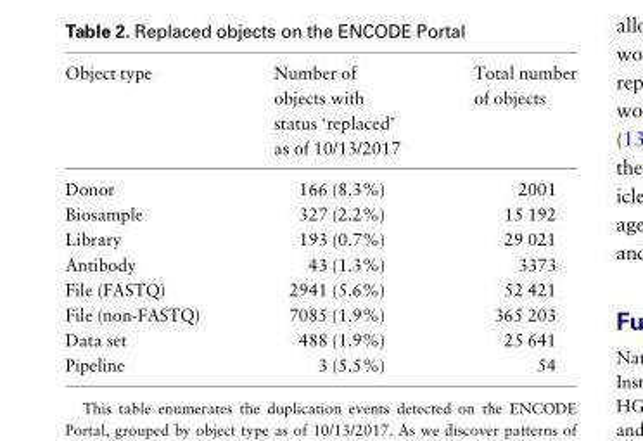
<table><thead><tr><td>Object type</td><td>Number of objects with status ‘replaced’ as of 10/13/2017</td><td>Total number of objects</td></tr></thead><tbody><tr><td>Donor</td><td>166 (8.3%)</td><td>2001</td></tr><tr><td>Biosample</td><td>327 (2.2%)</td><td>15 192</td></tr><tr><td>Library</td><td>193 (0.7%)</td><td>29 021</td></tr><tr><td>Antibody</td><td>43 (1.3%)</td><td>3373</td></tr><tr><td>File (FASTQ)</td><td>2941 (5.6%)</td><td>52 421</td></tr><tr><td>File (non-FASTQ)</td><td>7085 (1.9%)</td><td>365 203</td></tr><tr><td>Data set</td><td>488 (1.9%)</td><td>25 641</td></tr><tr><td>Pipeline</td><td>3 (5.5%)</td><td>54</td></tr></tbody></table>